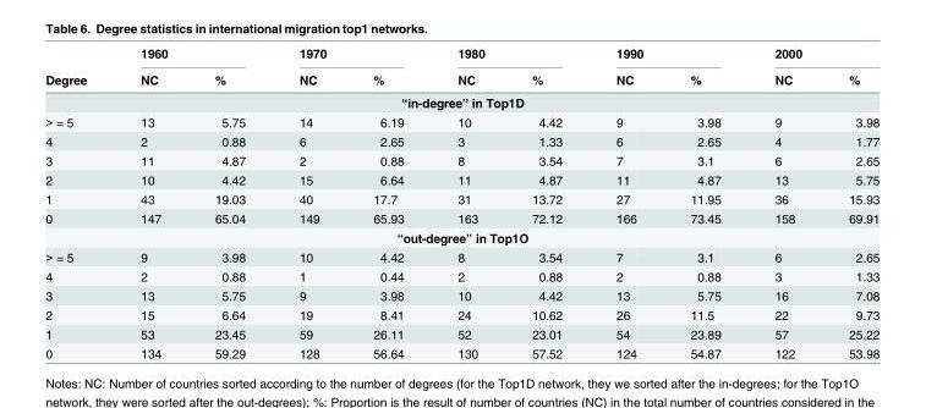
<table><thead><tr><td rowspan="2">Degree</td><td colspan="2">1960</td><td colspan="2">1970</td><td colspan="2">1980</td><td colspan="2">1990</td><td colspan="2">2000</td></tr><tr><td>NC</td><td>%</td><td>NC</td><td>%</td><td>NC</td><td>%</td><td>NC</td><td>%</td><td>NC</td><td>%</td></tr></thead><tbody><tr><td colspan="11">“in-degree” in Top1D</td></tr><tr><td>&gt; = 5</td><td>13</td><td>5.75</td><td>14</td><td>6.19</td><td>10</td><td>4.42</td><td>9</td><td>3.98</td><td>9</td><td>3.98</td></tr><tr><td>4</td><td>2</td><td>0.88</td><td>6</td><td>2.65</td><td>3</td><td>1.33</td><td>6</td><td>2.65</td><td>4</td><td>1.77</td></tr><tr><td>3</td><td>11</td><td>4.87</td><td>2</td><td>0.88</td><td>8</td><td>3.54</td><td>7</td><td>3.1</td><td>6</td><td>2.65</td></tr><tr><td>2</td><td>10</td><td>4.42</td><td>15</td><td>6.64</td><td>11</td><td>4.87</td><td>11</td><td>4.87</td><td>13</td><td>5.75</td></tr><tr><td>1</td><td>43</td><td>19.03</td><td>40</td><td>17.7</td><td>31</td><td>13.72</td><td>27</td><td>11.95</td><td>36</td><td>15.93</td></tr><tr><td>0</td><td>147</td><td>65.04</td><td>149</td><td>65.93</td><td>163</td><td>72.12</td><td>166</td><td>73.45</td><td>158</td><td>69.91</td></tr><tr><td colspan="11">“out-degree” in Top1O</td></tr><tr><td>&gt; = 5</td><td>9</td><td>3.98</td><td>10</td><td>4.42</td><td>8</td><td>3.54</td><td>7</td><td>3.1</td><td>6</td><td>2.65</td></tr><tr><td>4</td><td>2</td><td>0.88</td><td>1</td><td>0.44</td><td>2</td><td>0.88</td><td>2</td><td>0.88</td><td>3</td><td>1.33</td></tr><tr><td>3</td><td>13</td><td>5.75</td><td>9</td><td>3.98</td><td>10</td><td>4.42</td><td>13</td><td>5.75</td><td>16</td><td>7.08</td></tr><tr><td>2</td><td>15</td><td>6.64</td><td>19</td><td>8.41</td><td>24</td><td>10.62</td><td>26</td><td>11.5</td><td>22</td><td>9.73</td></tr><tr><td>1</td><td>53</td><td>23.45</td><td>59</td><td>26.11</td><td>52</td><td>23.01</td><td>54</td><td>23.89</td><td>57</td><td>25.22</td></tr><tr><td>0</td><td>134</td><td>59.29</td><td>128</td><td>56.64</td><td>130</td><td>57.52</td><td>124</td><td>54.87</td><td>122</td><td>53.98</td></tr></tbody></table>